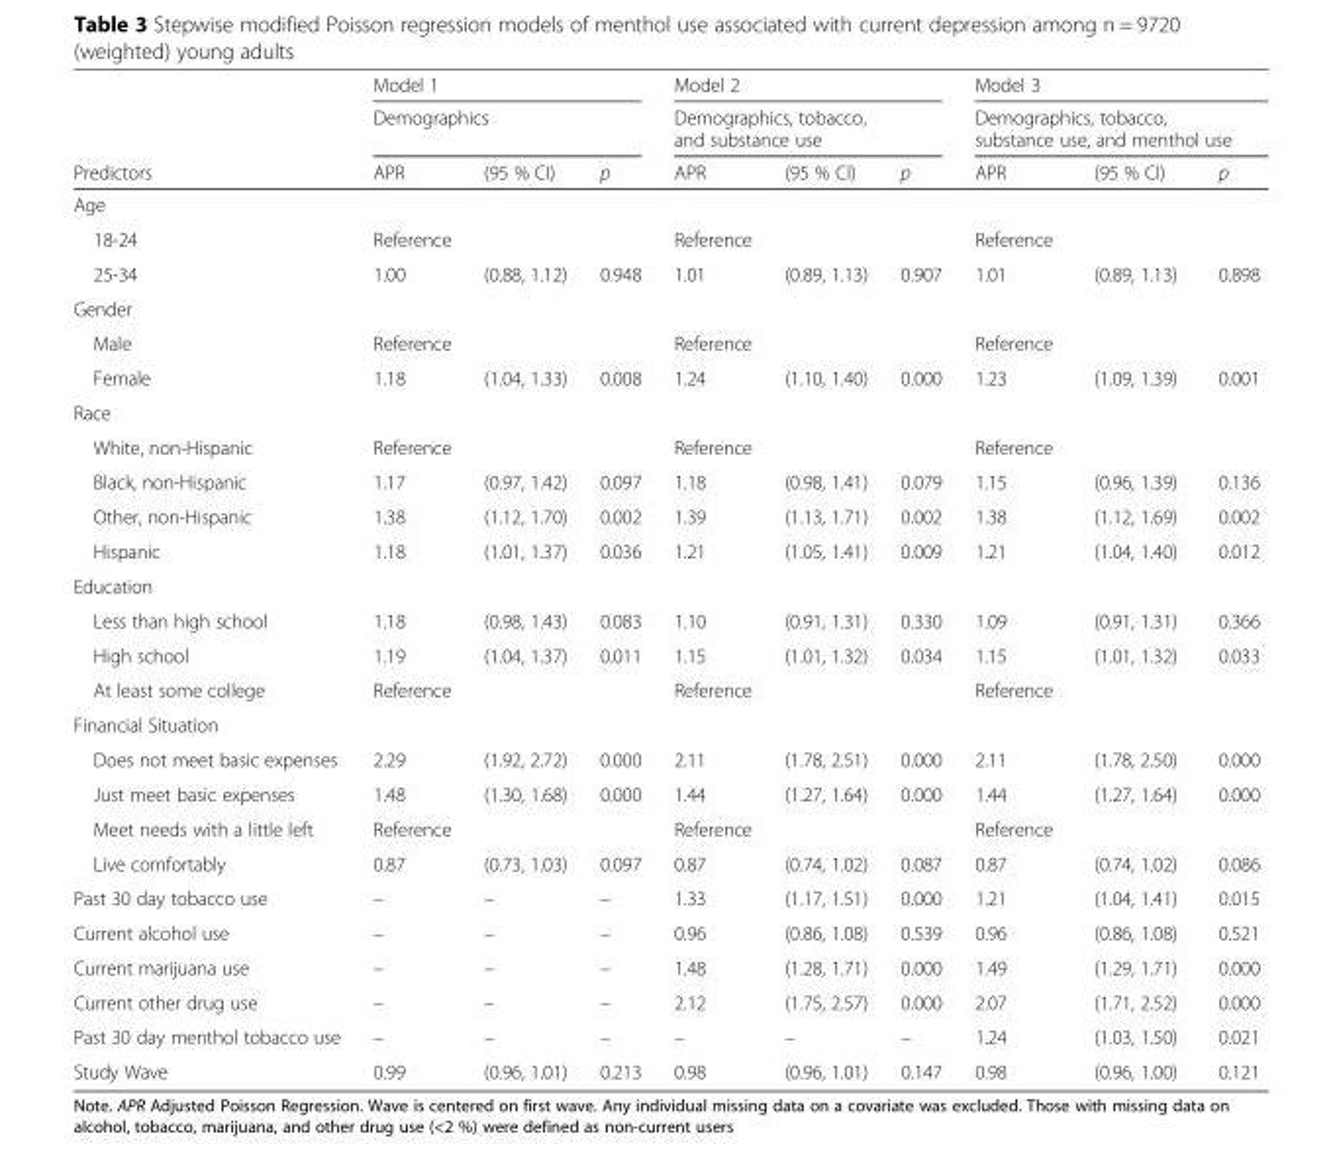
<table><thead><tr><td rowspan="3">Predictors</td><td rowspan="2" colspan="3">Model 1 Demographics</td><td rowspan="2" colspan="3">Model 2 Demographics, tobacco, and substance use</td><td rowspan="2" colspan="3">Model 3 Demographics, tobacco, substance use, and menthol use</td></tr><tr></tr><tr><td>APR</td><td>(95 % CI)</td><td>p</td><td>APR</td><td>(95 % CI)</td><td>p</td><td>APR</td><td>(95 % CI)</td><td>p</td></tr></thead><tbody><tr><td colspan="10">Age</td></tr><tr><td>18-24</td><td>Reference</td><td></td><td></td><td>Reference</td><td></td><td></td><td>Reference</td><td></td><td></td></tr><tr><td>25-34</td><td>1.00</td><td>(0.88, 1.12)</td><td>0.948</td><td>1.01</td><td>(0.89, 1.13)</td><td>0.907</td><td>1.01</td><td>(0.89, 1.13)</td><td>0.898</td></tr><tr><td colspan="10">Gender</td></tr><tr><td>Male</td><td>Reference</td><td></td><td></td><td>Reference</td><td></td><td></td><td>Reference</td><td></td><td></td></tr><tr><td>Female</td><td>1.18</td><td>(1.04, 1.33)</td><td>0.008</td><td>1.24</td><td>(1.10, 1.40)</td><td>0.000</td><td>1.23</td><td>(1.09, 1.39)</td><td>0.001</td></tr><tr><td colspan="10">Race</td></tr><tr><td>White, non-Hispanic</td><td>Reference</td><td></td><td></td><td>Reference</td><td></td><td></td><td>Reference</td><td></td><td></td></tr><tr><td>Black, non-Hispanic</td><td>1.17</td><td>(0.97, 1.42)</td><td>0.097</td><td>1.18</td><td>(0.98, 1.41)</td><td>0.079</td><td>1.15</td><td>(0.96, 1.39)</td><td>0.136</td></tr><tr><td>Other, non-Hispanic</td><td>1.38</td><td>(1.12, 1.70)</td><td>0.002</td><td>1.39</td><td>(1.13, 1.71)</td><td>0.002</td><td>1.38</td><td>(1.12, 1.69)</td><td>0.002</td></tr><tr><td>Hispanic</td><td>1.18</td><td>(1.01, 1.37)</td><td>0.036</td><td>1.21</td><td>(1.05, 1.41)</td><td>0.009</td><td>1.21</td><td>(1.04, 1.40)</td><td>0.012</td></tr><tr><td colspan="10">Education</td></tr><tr><td>Less than high school</td><td>1.18</td><td>(0.98, 1.43)</td><td>0.083</td><td>1.10</td><td>(0.91, 1.31)</td><td>0.330</td><td>1.09</td><td>(0.91, 1.31)</td><td>0.366</td></tr><tr><td>High school</td><td>1.19</td><td>(1.04, 1.37)</td><td>0.011</td><td>1.15</td><td>(1.01, 1.32)</td><td>0.034</td><td>1.15</td><td>(1.01, 1.32)</td><td>0.033</td></tr><tr><td>At least some college</td><td>Reference</td><td></td><td></td><td>Reference</td><td></td><td></td><td>Reference</td><td></td><td></td></tr><tr><td colspan="10">Financial Situation</td></tr><tr><td>Does not meet basic expenses</td><td>2.29</td><td>(1.92, 2.72)</td><td>0.000</td><td>2.11</td><td>(1.78, 2.51)</td><td>0.000</td><td>2.11</td><td>(1.78, 2.50)</td><td>0.000</td></tr><tr><td>Just meet basic expenses</td><td>1.48</td><td>(1.30, 1.68)</td><td>0.000</td><td>1.44</td><td>(1.27, 1.64)</td><td>0.000</td><td>1.44</td><td>(1.27, 1.64)</td><td>0.000</td></tr><tr><td>Meet needs with a little left</td><td>Reference</td><td></td><td></td><td>Reference</td><td></td><td></td><td>Reference</td><td></td><td></td></tr><tr><td>Live comfortably</td><td>0.87</td><td>(0.73, 1.03)</td><td>0.097</td><td>0.87</td><td>(0.74, 1.02)</td><td>0.087</td><td>0.87</td><td>(0.74, 1.02)</td><td>0.086</td></tr><tr><td>Past 30 day tobacco use</td><td>–</td><td>–</td><td>–</td><td>1.33</td><td>(1.17, 1.51)</td><td>0.000</td><td>1.21</td><td>(1.04, 1.41)</td><td>0.015</td></tr><tr><td>Current alcohol use</td><td>–</td><td>–</td><td>–</td><td>0.96</td><td>(0.86, 1.08)</td><td>0.539</td><td>0.96</td><td>(0.86, 1.08)</td><td>0.521</td></tr><tr><td>Current marijuana use</td><td>–</td><td>–</td><td>–</td><td>1.48</td><td>(1.28, 1.71)</td><td>0.000</td><td>1.49</td><td>(1.29, 1.71)</td><td>0.000</td></tr><tr><td>Current other drug use</td><td>–</td><td>–</td><td>–</td><td>2.12</td><td>(1.75, 2.57)</td><td>0.000</td><td>2.07</td><td>(1.71, 2.52)</td><td>0.000</td></tr><tr><td>Past 30 day menthol tobacco use</td><td>–</td><td>–</td><td>–</td><td>–</td><td>–</td><td>–</td><td>1.24</td><td>(1.03, 1.50)</td><td>0.021</td></tr><tr><td>Study Wave</td><td>0.99</td><td>(0.96, 1.01)</td><td>0.213</td><td>0.98</td><td>(0.96, 1.01)</td><td>0.147</td><td>0.98</td><td>(0.96, 1.00)</td><td>0.121</td></tr></tbody></table>